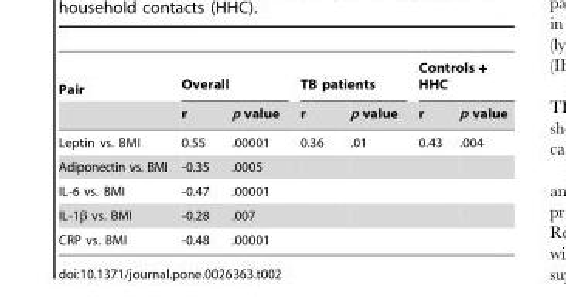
<table><thead><tr><td rowspan="2">Pair</td><td colspan="2">Overall</td><td colspan="2">TB patients</td><td colspan="2">Controls + HHC</td></tr><tr><td>r</td><td>p value</td><td>r</td><td>p value</td><td>r</td><td>p value</td></tr></thead><tbody><tr><td>Leptin vs. BMI</td><td>0.55</td><td>.00001</td><td>0.36</td><td>.01</td><td>0.43</td><td>.004</td></tr><tr><td>Adiponectin vs. BMI</td><td>-0.35</td><td>.0005</td><td></td><td></td><td></td><td></td></tr><tr><td>IL-6 vs. BMI</td><td>-0.47</td><td>.00001</td><td></td><td></td><td></td><td></td></tr><tr><td>IL-1β vs. BMI</td><td>-0.28</td><td>.007</td><td></td><td></td><td></td><td></td></tr><tr><td>CRP vs. BMI</td><td>-0.48</td><td>.00001</td><td></td><td></td><td></td><td></td></tr></tbody></table>